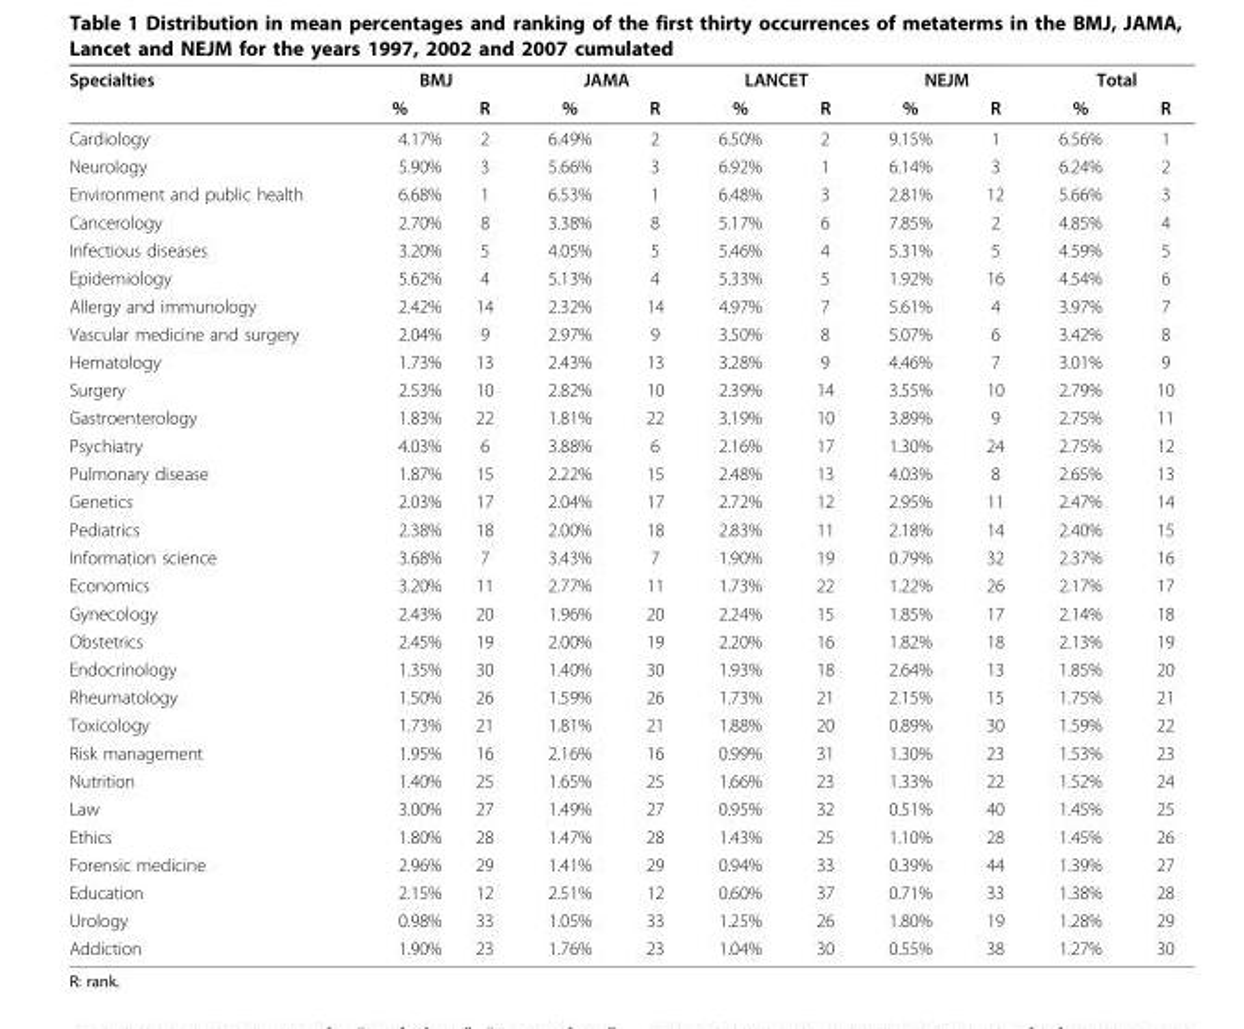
<table><thead><tr><td rowspan="2">Specialties</td><td colspan="2">BMJ</td><td colspan="2">JAMA</td><td colspan="2">LANCET</td><td colspan="2">NEJM</td><td colspan="2">Total</td></tr><tr><td>%</td><td>R</td><td>%</td><td>R</td><td>%</td><td>R</td><td>%</td><td>R</td><td>%</td><td>R</td></tr></thead><tbody><tr><td>Cardiology</td><td>4.17%</td><td>2</td><td>6.49%</td><td>2</td><td>6.50%</td><td>2</td><td>9.15%</td><td>1</td><td>6.56%</td><td>1</td></tr><tr><td>Neurology</td><td>5.90%</td><td>3</td><td>5.66%</td><td>3</td><td>6.92%</td><td>1</td><td>6.14%</td><td>3</td><td>6.24%</td><td>2</td></tr><tr><td>Environment and public health</td><td>6.68%</td><td>1</td><td>6.53%</td><td>1</td><td>6.48%</td><td>3</td><td>2.81%</td><td>12</td><td>5.66%</td><td>3</td></tr><tr><td>Cancerology</td><td>2.70%</td><td>8</td><td>3.38%</td><td>8</td><td>5.17%</td><td>6</td><td>7.85%</td><td>2</td><td>4.85%</td><td>4</td></tr><tr><td>Infectious diseases</td><td>3.20%</td><td>5</td><td>4.05%</td><td>5</td><td>5.46%</td><td>4</td><td>5.31%</td><td>5</td><td>4.59%</td><td>5</td></tr><tr><td>Epidemiology</td><td>5.62%</td><td>4</td><td>5.13%</td><td>4</td><td>5.33%</td><td>5</td><td>1.92%</td><td>16</td><td>4.54%</td><td>6</td></tr><tr><td>Allergy and immunology</td><td>2.42%</td><td>14</td><td>2.32%</td><td>14</td><td>4.97%</td><td>7</td><td>5.61%</td><td>4</td><td>3.97%</td><td>7</td></tr><tr><td>Vascular medicine and surgery</td><td>2.04%</td><td>9</td><td>2.97%</td><td>9</td><td>3.50%</td><td>8</td><td>5.07%</td><td>6</td><td>3.42%</td><td>8</td></tr><tr><td>Hematology</td><td>1.73%</td><td>13</td><td>2.43%</td><td>13</td><td>3.28%</td><td>9</td><td>4.46%</td><td>7</td><td>3.01%</td><td>9</td></tr><tr><td>Surgery</td><td>2.53%</td><td>10</td><td>2.82%</td><td>10</td><td>2.39%</td><td>14</td><td>3.55%</td><td>10</td><td>2.79%</td><td>10</td></tr><tr><td>Gastroenterology</td><td>1.83%</td><td>22</td><td>1.81%</td><td>22</td><td>3.19%</td><td>10</td><td>3.89%</td><td>9</td><td>2.75%</td><td>11</td></tr><tr><td>Psychiatry</td><td>4.03%</td><td>6</td><td>3.88%</td><td>6</td><td>2.16%</td><td>17</td><td>1.30%</td><td>24</td><td>2.75%</td><td>12</td></tr><tr><td>Pulmonary disease</td><td>1.87%</td><td>15</td><td>2.22%</td><td>15</td><td>2.48%</td><td>13</td><td>4.03%</td><td>8</td><td>2.65%</td><td>13</td></tr><tr><td>Genetics</td><td>2.03%</td><td>17</td><td>2.04%</td><td>17</td><td>2.72%</td><td>12</td><td>2.95%</td><td>11</td><td>2.47%</td><td>14</td></tr><tr><td>Pediatrics</td><td>2.38%</td><td>18</td><td>2.00%</td><td>18</td><td>2.83%</td><td>11</td><td>2.18%</td><td>14</td><td>2.40%</td><td>15</td></tr><tr><td>Information science</td><td>3.68%</td><td>7</td><td>3.43%</td><td>7</td><td>1.90%</td><td>19</td><td>0.79%</td><td>32</td><td>2.37%</td><td>16</td></tr><tr><td>Economics</td><td>3.20%</td><td>11</td><td>2.77%</td><td>11</td><td>1.73%</td><td>22</td><td>1.22%</td><td>26</td><td>2.17%</td><td>17</td></tr><tr><td>Gynecology</td><td>2.43%</td><td>20</td><td>1.96%</td><td>20</td><td>2.24%</td><td>15</td><td>1.85%</td><td>17</td><td>2.14%</td><td>18</td></tr><tr><td>Obstetrics</td><td>2.45%</td><td>19</td><td>2.00%</td><td>19</td><td>2.20%</td><td>16</td><td>1.82%</td><td>18</td><td>2.13%</td><td>19</td></tr><tr><td>Endocrinology</td><td>1.35%</td><td>30</td><td>1.40%</td><td>30</td><td>1.93%</td><td>18</td><td>2.64%</td><td>13</td><td>1.85%</td><td>20</td></tr><tr><td>Rheumatology</td><td>1.50%</td><td>26</td><td>1.59%</td><td>26</td><td>1.73%</td><td>21</td><td>2.15%</td><td>15</td><td>1.75%</td><td>21</td></tr><tr><td>Toxicology</td><td>1.73%</td><td>21</td><td>1.81%</td><td>21</td><td>1.88%</td><td>20</td><td>0.89%</td><td>30</td><td>1.59%</td><td>22</td></tr><tr><td>Risk management</td><td>1.95%</td><td>16</td><td>2.16%</td><td>16</td><td>0.99%</td><td>31</td><td>1.30%</td><td>23</td><td>1.53%</td><td>23</td></tr><tr><td>Nutrition</td><td>1.40%</td><td>25</td><td>1.65%</td><td>25</td><td>1.66%</td><td>23</td><td>1.33%</td><td>22</td><td>1.52%</td><td>24</td></tr><tr><td>Law</td><td>3.00%</td><td>27</td><td>1.49%</td><td>27</td><td>0.95%</td><td>32</td><td>0.51%</td><td>40</td><td>1.45%</td><td>25</td></tr><tr><td>Ethics</td><td>1.80%</td><td>28</td><td>1.47%</td><td>28</td><td>1.43%</td><td>25</td><td>1.10%</td><td>28</td><td>1.45%</td><td>26</td></tr><tr><td>Forensic medicine</td><td>2.96%</td><td>29</td><td>1.41%</td><td>29</td><td>0.94%</td><td>33</td><td>0.39%</td><td>44</td><td>1.39%</td><td>27</td></tr><tr><td>Education</td><td>2.15%</td><td>12</td><td>2.51%</td><td>12</td><td>0.60%</td><td>37</td><td>0.71%</td><td>33</td><td>1.38%</td><td>28</td></tr><tr><td>Urology</td><td>0.98%</td><td>33</td><td>1.05%</td><td>33</td><td>1.25%</td><td>26</td><td>1.80%</td><td>19</td><td>1.28%</td><td>29</td></tr><tr><td>Addiction</td><td>1.90%</td><td>23</td><td>1.76%</td><td>23</td><td>1.04%</td><td>30</td><td>0.55%</td><td>38</td><td>1.27%</td><td>30</td></tr></tbody></table>